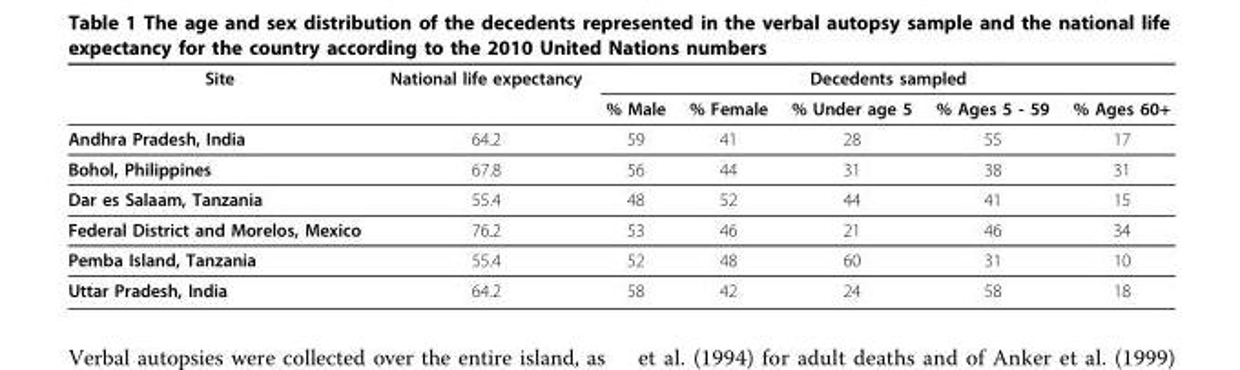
<table><thead><tr><td rowspan="2">Site</td><td rowspan="2">National life expectancy</td><td colspan="5">Decedents sampled</td></tr><tr><td>% Male</td><td>% Female</td><td>% Under age 5</td><td>% Ages 5 - 59</td><td>% Ages 60+</td></tr></thead><tbody><tr><td>Andhra Pradesh, India</td><td>64.2</td><td>59</td><td>41</td><td>28</td><td>55</td><td>17</td></tr><tr><td>Bohol, Philippines</td><td>67.8</td><td>56</td><td>44</td><td>31</td><td>38</td><td>31</td></tr><tr><td>Dar es Salaam, Tanzania</td><td>55.4</td><td>48</td><td>52</td><td>44</td><td>41</td><td>15</td></tr><tr><td>Federal District and Morelos, Mexico</td><td>76.2</td><td>53</td><td>46</td><td>21</td><td>46</td><td>34</td></tr><tr><td>Pemba Island, Tanzania</td><td>55.4</td><td>52</td><td>48</td><td>60</td><td>31</td><td>10</td></tr><tr><td>Uttar Pradesh, India</td><td>64.2</td><td>58</td><td>42</td><td>24</td><td>58</td><td>18</td></tr></tbody></table>